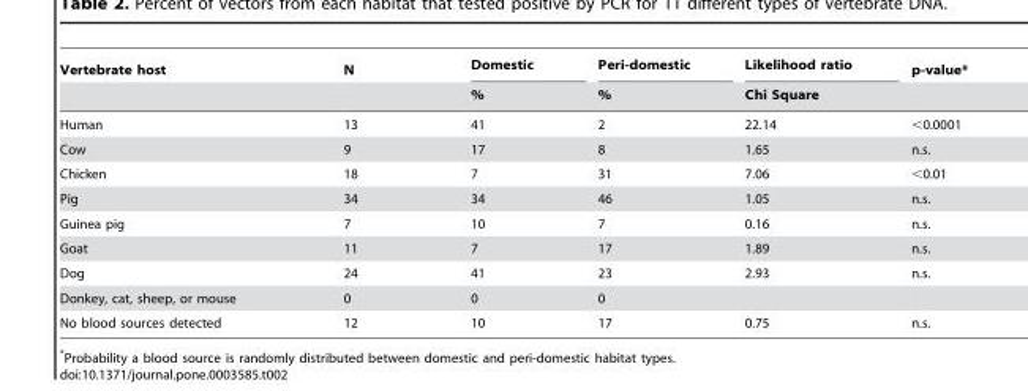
<table><thead><tr><td rowspan="2">Vertebrate host</td><td rowspan="2">N</td><td rowspan="2">Domestic %</td><td rowspan="2">Peri-domestic %</td><td rowspan="2">Likelihood ratio Chi Square</td><td rowspan="2">p-value*</td></tr><tr></tr></thead><tbody><tr><td>Human</td><td>13</td><td>41</td><td>2</td><td>22.14</td><td>&lt;0.0001</td></tr><tr><td>Cow</td><td>9</td><td>17</td><td>8</td><td>1.65</td><td>n.s.</td></tr><tr><td>Chicken</td><td>18</td><td>7</td><td>31</td><td>7.06</td><td>&lt;0.01</td></tr><tr><td>Pig</td><td>34</td><td>34</td><td>46</td><td>1.05</td><td>n.s.</td></tr><tr><td>Guinea pig</td><td>7</td><td>10</td><td>7</td><td>0.16</td><td>n.s.</td></tr><tr><td>Goat</td><td>11</td><td>7</td><td>17</td><td>1.89</td><td>n.s.</td></tr><tr><td>Dog</td><td>24</td><td>41</td><td>23</td><td>2.93</td><td>n.s.</td></tr><tr><td>Donkey, cat, sheep, or mouse</td><td>0</td><td>0</td><td>0</td><td></td><td></td></tr><tr><td>No blood sources detected</td><td>12</td><td>10</td><td>17</td><td>0.75</td><td>n.s.</td></tr></tbody></table>